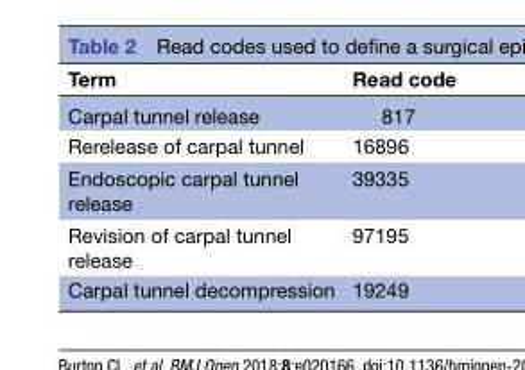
<table><thead><tr><td>Term</td><td>Read code</td></tr></thead><tbody><tr><td>Carpal tunnel release</td><td>817</td></tr><tr><td>Rerelease of carpal tunnel</td><td>16896</td></tr><tr><td>Endoscopic carpal tunnel release</td><td>39335</td></tr><tr><td>Revision of carpal tunnel release</td><td>97195</td></tr><tr><td>Carpal tunnel decompression</td><td>19249</td></tr></tbody></table>